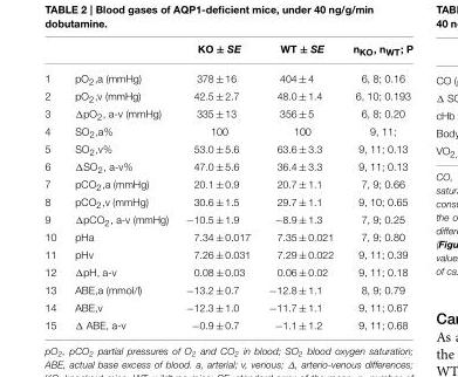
<table><thead><tr><td></td><td></td><td>KO ± SE</td><td>WT ± SE</td><td>n<sub>KO</sub>, n<sub>WT</sub>; P</td></tr></thead><tbody><tr><td>1</td><td>pO<sub>2</sub>,a (mmHg)</td><td>378 ± 16</td><td>404 ± 4</td><td>6, 8; 0.16</td></tr><tr><td>2</td><td>pO<sub>2</sub>,v (mmHg)</td><td>42.5 ± 2.7</td><td>48.0 ± 1.4</td><td>6, 10; 0.193</td></tr><tr><td>3</td><td>ΔpO<sub>2</sub>, a-v (mmHg)</td><td>335 ± 13</td><td>356 ± 5</td><td>6, 8; 0.20</td></tr><tr><td>4</td><td>SO<sub>2</sub>,a%</td><td>100</td><td>100</td><td>9, 11;</td></tr><tr><td>5</td><td>SO<sub>2</sub>,v%</td><td>53.0 ± 5.6</td><td>63.6 ± 3.3</td><td>9, 11; 0.13</td></tr><tr><td>6</td><td>ΔSO<sub>2</sub>, a-v%</td><td>47.0 ± 5.6</td><td>36.4 ± 3.3</td><td>9, 11; 0.13</td></tr><tr><td>7</td><td>pCO<sub>2</sub>,a (mmHg)</td><td>20.1 ± 0.9</td><td>20.7 ± 1.1</td><td>7, 9; 0.66</td></tr><tr><td>8</td><td>pCO<sub>2</sub>,v (mmHg)</td><td>30.6 ± 1.5</td><td>29.7 ± 1.1</td><td>9, 10; 0.65</td></tr><tr><td>9</td><td>ΔpCO<sub>2</sub>, a-v (mmHg)</td><td>−10.5 ± 1.9</td><td>−8.9 ± 1.3</td><td>7, 9; 0.25</td></tr><tr><td>10</td><td>pHa</td><td>7.34 ± 0.017</td><td>7.35 ± 0.021</td><td>7, 9; 0.80</td></tr><tr><td>11</td><td>pHv</td><td>7.26 ± 0.031</td><td>7.29 ± 0.022</td><td>9, 11; 0.39</td></tr><tr><td>12</td><td>ΔpH, a-v</td><td>0.08 ± 0.03</td><td>0.06 ± 0.02</td><td>9, 11; 0.18</td></tr><tr><td>13</td><td>ABE,a (mmol/l)</td><td>−13.2 ± 0.7</td><td>−12.8 ± 1.1</td><td>8, 9; 0.79</td></tr><tr><td>14</td><td>ABE,v</td><td>−12.3 ± 1.0</td><td>−11.7 ± 1.1</td><td>9, 11; 0.67</td></tr><tr><td>15</td><td>Δ ABE, a-v</td><td>−0.9 ± 0.7</td><td>−1.1 ± 1.2</td><td>9, 11; 0.68</td></tr></tbody></table>